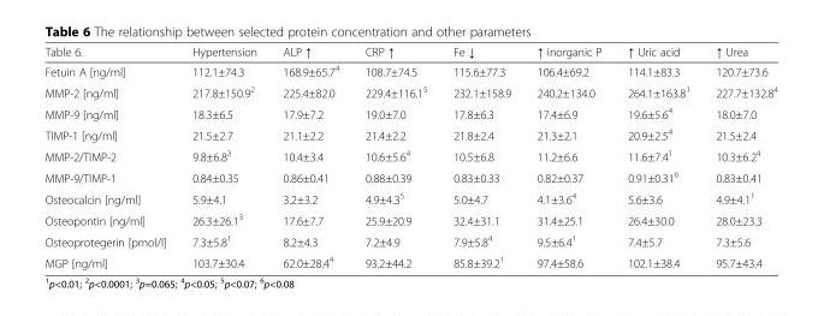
<table><thead><tr><td>Table 6.</td><td>Hypertension</td><td>ALP ↑</td><td>CRP ↑</td><td>Fe ↓</td><td>↑ inorganic P</td><td>↑ Uric acid</td><td>↑ Urea</td></tr></thead><tbody><tr><td>Fetuin A [ng/ml]</td><td>112.1±74.3</td><td>168.9±65.7<sup>4</sup></td><td>108.7±74.5</td><td>115.6±77.3</td><td>106.4±69.2</td><td>114.1±83.3</td><td>120.7±73.6</td></tr><tr><td>MMP-2 [ng/ml]</td><td>217.8±150.9<sup>2</sup></td><td>225.4±82.0</td><td>229.4±116.1<sup>5</sup></td><td>232.1±158.9</td><td>240.2±134.0</td><td>264.1±163.8<sup>1</sup></td><td>227.7±132.8<sup>4</sup></td></tr><tr><td>MMP-9 [ng/ml]</td><td>18.3±6.5</td><td>17.9±7.2</td><td>19.0±7.0</td><td>17.8±6.3</td><td>17.4±6.9</td><td>19.6±5.6<sup>4</sup></td><td>18.0±7.0</td></tr><tr><td>TIMP-1 [ng/ml]</td><td>21.5±2.7</td><td>21.1±2.2</td><td>21.4±2.2</td><td>21.8±2.4</td><td>21.3±2.1</td><td>20.9±2.5<sup>4</sup></td><td>21.5±2.4</td></tr><tr><td>MMP-2/TIMP-2</td><td>9.8±6.8<sup>3</sup></td><td>10.4±3.4</td><td>10.6±5.6<sup>4</sup></td><td>10.5±6.8</td><td>11.2±6.6</td><td>11.6±7.4<sup>1</sup></td><td>10.3±6.2<sup>4</sup></td></tr><tr><td>MMP-9/TIMP-1</td><td>0.84±0.35</td><td>0.86±0.41</td><td>0.88±0.39</td><td>0.83±0.33</td><td>0.82±0.37</td><td>0.91±0.31<sup>6</sup></td><td>0.83±0.41</td></tr><tr><td>Osteocalcin [ng/ml]</td><td>5.9±4.1</td><td>3.2±3.2</td><td>4.9±4.3<sup>5</sup></td><td>5.0±4.7</td><td>4.1±3.6<sup>4</sup></td><td>5.6±3.6</td><td>4.9±4.1<sup>1</sup></td></tr><tr><td>Osteopontin [ng/ml]</td><td>26.3±26.1<sup>3</sup></td><td>17.6±7.7</td><td>25.9±20.9</td><td>32.4±31.1</td><td>31.4±25.1</td><td>26.4±30.0</td><td>28.0±23.3</td></tr><tr><td>Osteoprotegerin [pmol/l]</td><td>7.3±5.8<sup>1</sup></td><td>8.2±4.3</td><td>7.2±4.9</td><td>7.9±5.8<sup>4</sup></td><td>9.5±6.4<sup>1</sup></td><td>7.4±5.7</td><td>7.3±5.6</td></tr><tr><td>MGP [ng/ml]</td><td>103.7±30.4</td><td>62.0±28.4<sup>4</sup></td><td>93.2±44.2</td><td>85.8±39.2<sup>1</sup></td><td>97.4±58.6</td><td>102.1±38.4</td><td>95.7±43.4</td></tr></tbody></table>